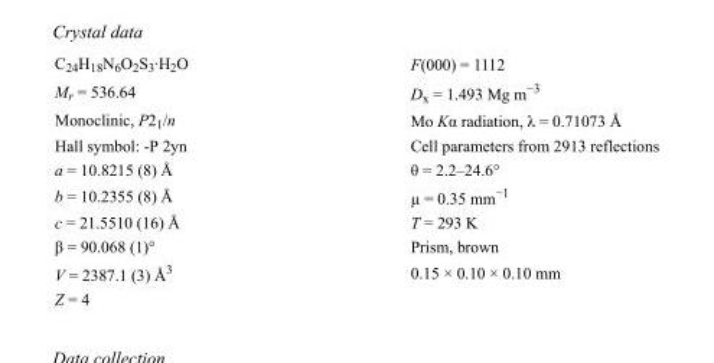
<table><tbody><tr><td>C<sub>24</sub>H<sub>18</sub>N<sub>6</sub>O<sub>2</sub>S<sub>3</sub>·H<sub>2</sub>O</td><td>F(000) = 1112</td></tr><tr><td>M<sub>r</sub> = 536.64</td><td>D<sub>x</sub> = 1.493 Mg m<sup>−3</sup></td></tr><tr><td>Monoclinic, P2<sub>1</sub>/n</td><td>Mo Kα radiation, λ = 0.71073 Å</td></tr><tr><td>Hall symbol: -P 2yn</td><td>Cell parameters from 2913 reflections</td></tr><tr><td>a = 10.8215 (8) Å</td><td>θ = 2.2–24.6°</td></tr><tr><td>b = 10.2355 (8) Å</td><td>µ = 0.35 mm<sup>−1</sup></td></tr><tr><td>c = 21.5510 (16) Å</td><td>T = 293 K</td></tr><tr><td>β = 90.068 (1)°</td><td>Prism, brown</td></tr><tr><td>V = 2387.1 (3) Å<sup>3</sup></td><td>0.15 × 0.10 × 0.10 mm</td></tr><tr><td>Z = 4</td><td></td></tr></tbody></table>